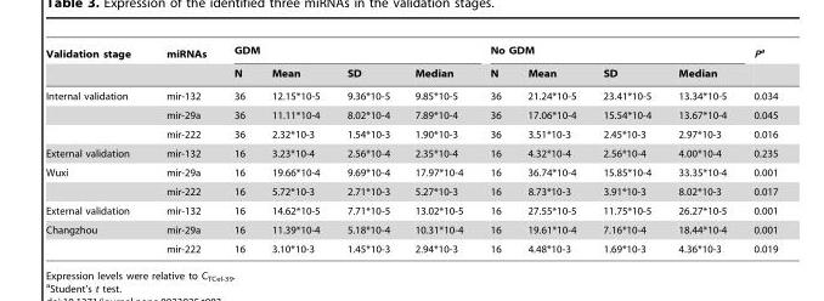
<table><thead><tr><td rowspan="2">Validation stage</td><td rowspan="2">miRNAs</td><td colspan="4">GDM</td><td colspan="4">No GDM</td><td rowspan="2">Pa</td></tr><tr><td>N</td><td>Mean</td><td>SD</td><td>Median</td><td>N</td><td>Mean</td><td>SD</td><td>Median</td></tr></thead><tbody><tr><td rowspan="3">Internal validation</td><td>mir-132</td><td>36</td><td>12.15*10-5</td><td>9.36*10-5</td><td>9.85*10-5</td><td>36</td><td>21.24*10-5</td><td>23.41*10-5</td><td>13.34*10-5</td><td>0.034</td></tr><tr><td>mir-29a</td><td>36</td><td>11.11*10-4</td><td>8.02*10-4</td><td>7.89*10-4</td><td>36</td><td>17.06*10-4</td><td>15.54*10-4</td><td>13.67*10-4</td><td>0.045</td></tr><tr><td>mir-222</td><td>36</td><td>2.32*10-3</td><td>1.54*10-3</td><td>1.90*10-3</td><td>36</td><td>3.51*10-3</td><td>2.45*10-3</td><td>2.97*10-3</td><td>0.016</td></tr><tr><td>External validation</td><td>mir-132</td><td>16</td><td>3.23*10-4</td><td>2.56*10-4</td><td>2.35*10-4</td><td>16</td><td>4.32*10-4</td><td>2.56*10-4</td><td>4.00*10-4</td><td>0.235</td></tr><tr><td rowspan="2">Wuxi</td><td>mir-29a</td><td>16</td><td>19.66*10-4</td><td>9.69*10-4</td><td>17.97*10-4</td><td>16</td><td>36.74*10-4</td><td>15.85*10-4</td><td>33.35*10-4</td><td>0.001</td></tr><tr><td>mir-222</td><td>16</td><td>5.72*10-3</td><td>2.71*10-3</td><td>5.27*10-3</td><td>16</td><td>8.73*10-3</td><td>3.91*10-3</td><td>8.02*10-3</td><td>0.017</td></tr><tr><td>External validation</td><td>mir-132</td><td>16</td><td>14.62*10-5</td><td>7.71*10-5</td><td>13.02*10-5</td><td>16</td><td>27.55*10-5</td><td>11.75*10-5</td><td>26.27*10-5</td><td>0.001</td></tr><tr><td rowspan="2">Changzhou</td><td>mir-29a</td><td>16</td><td>11.39*10-4</td><td>5.18*10-4</td><td>10.31*10-4</td><td>16</td><td>19.61*10-4</td><td>7.16*10-4</td><td>18.44*10-4</td><td>0.001</td></tr><tr><td>mir-222</td><td>16</td><td>3.10*10-3</td><td>1.45*10-3</td><td>2.94*10-3</td><td>16</td><td>4.48*10-3</td><td>1.69*10-3</td><td>4.36*10-3</td><td>0.019</td></tr></tbody></table>